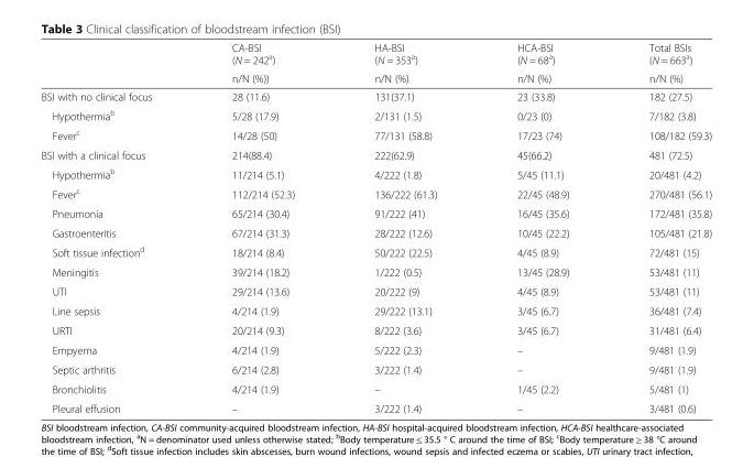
<table><thead><tr><td rowspan="2"></td><td rowspan="2">CA-BSI (N = 242<sup>a</sup>) n/N (%))</td><td rowspan="2">HA-BSI (N = 353<sup>a</sup>) n/N (%)</td><td rowspan="2">HCA-BSI (N = 68<sup>a</sup>) n/N (%)</td><td rowspan="2">Total BSIs (N = 663<sup>a</sup>) n/N (%)</td></tr><tr></tr></thead><tbody><tr><td>BSI with no clinical focus</td><td>28 (11.6)</td><td>131(37.1)</td><td>23 (33.8)</td><td>182 (27.5)</td></tr><tr><td>Hypothermia<sup>b</sup></td><td>5/28 (17.9)</td><td>2/131 (1.5)</td><td>0/23 (0)</td><td>7/182 (3.8)</td></tr><tr><td>Fever<sup>c</sup></td><td>14/28 (50)</td><td>77/131 (58.8)</td><td>17/23 (74)</td><td>108/182 (59.3)</td></tr><tr><td>BSI with a clinical focus</td><td>214(88.4)</td><td>222(62.9)</td><td>45(66.2)</td><td>481 (72.5)</td></tr><tr><td>Hypothermia<sup>b</sup></td><td>11/214 (5.1)</td><td>4/222 (1.8)</td><td>5/45 (11.1)</td><td>20/481 (4.2)</td></tr><tr><td>Fever<sup>c</sup></td><td>112/214 (52.3)</td><td>136/222 (61.3)</td><td>22/45 (48.9)</td><td>270/481 (56.1)</td></tr><tr><td>Pneumonia</td><td>65/214 (30.4)</td><td>91/222 (41)</td><td>16/45 (35.6)</td><td>172/481 (35.8)</td></tr><tr><td>Gastroenteritis</td><td>67/214 (31.3)</td><td>28/222 (12.6)</td><td>10/45 (22.2)</td><td>105/481 (21.8)</td></tr><tr><td>Soft tissue infection<sup>d</sup></td><td>18/214 (8.4)</td><td>50/222 (22.5)</td><td>4/45 (8.9)</td><td>72/481 (15)</td></tr><tr><td>Meningitis</td><td>39/214 (18.2)</td><td>1/222 (0.5)</td><td>13/45 (28.9)</td><td>53/481 (11)</td></tr><tr><td>UTI</td><td>29/214 (13.6)</td><td>20/222 (9)</td><td>4/45 (8.9)</td><td>53/481 (11)</td></tr><tr><td>Line sepsis</td><td>4/214 (1.9)</td><td>29/222 (13.1)</td><td>3/45 (6.7)</td><td>36/481 (7.4)</td></tr><tr><td>URTI</td><td>20/214 (9.3)</td><td>8/222 (3.6)</td><td>3/45 (6.7)</td><td>31/481 (6.4)</td></tr><tr><td>Empyema</td><td>4/214 (1.9)</td><td>5/222 (2.3)</td><td>–</td><td>9/481 (1.9)</td></tr><tr><td>Septic arthritis</td><td>6/214 (2.8)</td><td>3/222 (1.4)</td><td>–</td><td>9/481 (1.9)</td></tr><tr><td>Bronchiolitis</td><td>4/214 (1.9)</td><td>–</td><td>1/45 (2.2)</td><td>5/481 (1)</td></tr><tr><td>Pleural effusion</td><td>–</td><td>3/222 (1.4)</td><td>–</td><td>3/481 (0.6)</td></tr></tbody></table>